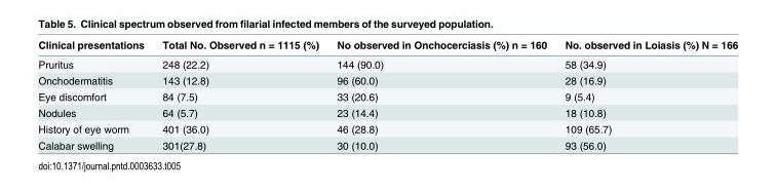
<table><thead><tr><td>Clinical presentations</td><td>Total No. Observed n = 1115 (%)</td><td>No observed in Onchocerciasis (%) n = 160</td><td>No. observed in Loiasis (%) N = 166</td></tr></thead><tbody><tr><td>Pruritus</td><td>248 (22.2)</td><td>144 (90.0)</td><td>58 (34.9)</td></tr><tr><td>Onchodermatitis</td><td>143 (12.8)</td><td>96 (60.0)</td><td>28 (16.9)</td></tr><tr><td>Eye discomfort</td><td>84 (7.5)</td><td>33 (20.6)</td><td>9 (5.4)</td></tr><tr><td>Nodules</td><td>64 (5.7)</td><td>23 (14.4)</td><td>18 (10.8)</td></tr><tr><td>History of eye worm</td><td>401 (36.0)</td><td>46 (28.8)</td><td>109 (65.7)</td></tr><tr><td>Calabar swelling</td><td>301(27.8)</td><td>30 (10.0)</td><td>93 (56.0)</td></tr></tbody></table>